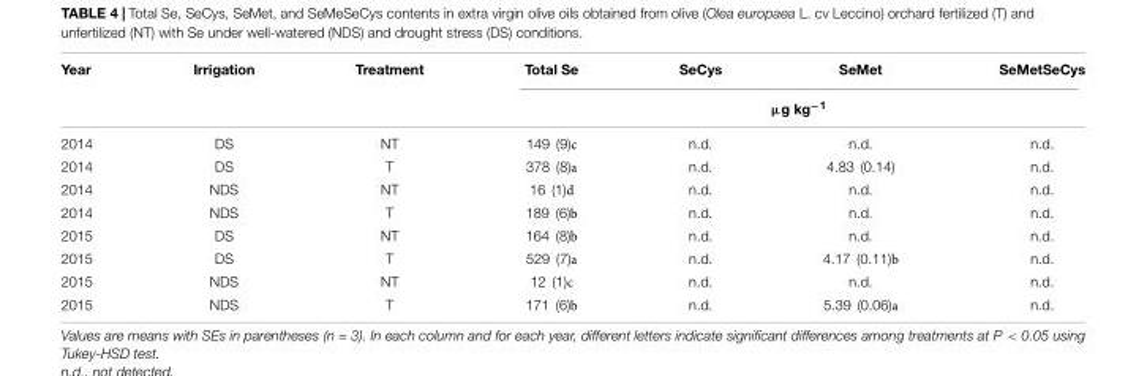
<table><thead><tr><td rowspan="2">Year</td><td rowspan="2">Irrigation</td><td rowspan="2">Treatment</td><td>Total Se</td><td>SeCys</td><td>SeMet</td><td>SeMetSeCys</td></tr><tr><td colspan="4">µg kg<sup>−1</sup></td></tr></thead><tbody><tr><td>2014</td><td>DS</td><td>NT</td><td>149 (9)c</td><td>n.d.</td><td>n.d.</td><td>n.d.</td></tr><tr><td>2014</td><td>DS</td><td>T</td><td>378 (8)a</td><td>n.d.</td><td>4.83 (0.14)</td><td>n.d.</td></tr><tr><td>2014</td><td>NDS</td><td>NT</td><td>16 (1)d</td><td>n.d.</td><td>n.d.</td><td>n.d.</td></tr><tr><td>2014</td><td>NDS</td><td>T</td><td>189 (6)b</td><td>n.d.</td><td>n.d.</td><td>n.d.</td></tr><tr><td>2015</td><td>DS</td><td>NT</td><td>164 (8)b</td><td>n.d.</td><td>n.d.</td><td>n.d.</td></tr><tr><td>2015</td><td>DS</td><td>T</td><td>529 (7)a</td><td>n.d.</td><td>4.17 (0.11)b</td><td>n.d.</td></tr><tr><td>2015</td><td>NDS</td><td>NT</td><td>12 (1)c</td><td>n.d.</td><td>n.d.</td><td>n.d.</td></tr><tr><td>2015</td><td>NDS</td><td>T</td><td>171 (6)b</td><td>n.d.</td><td>5.39 (0.06)a</td><td>n.d.</td></tr></tbody></table>